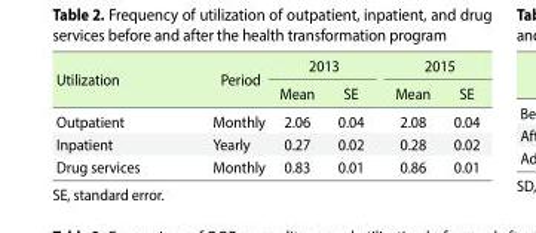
<table><thead><tr><td rowspan="2">Utilization</td><td rowspan="2">Period</td><td colspan="2">2013</td><td colspan="2">2015</td></tr><tr><td>Mean</td><td>SE</td><td>Mean</td><td>SE</td></tr></thead><tbody><tr><td>Outpatient</td><td>Monthly</td><td>2.06</td><td>0.04</td><td>2.08</td><td>0.04</td></tr><tr><td>Inpatient</td><td>Yearly</td><td>0.27</td><td>0.02</td><td>0.28</td><td>0.02</td></tr><tr><td>Drug services</td><td>Monthly</td><td>0.83</td><td>0.01</td><td>0.86</td><td>0.01</td></tr></tbody></table>